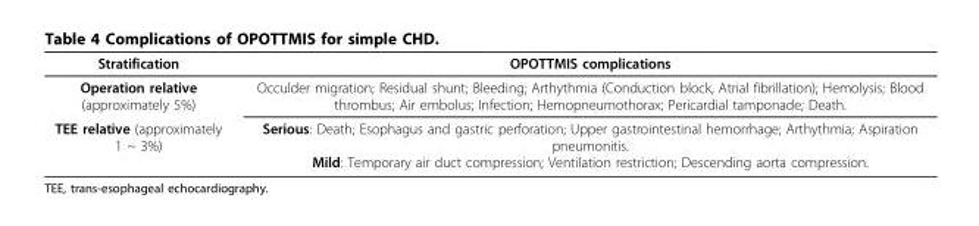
<table><thead><tr><td>Stratification</td><td>OPOTTMIS complications</td></tr></thead><tbody><tr><td>Operation relative (approximately 5%)</td><td>Occulder migration; Residual shunt; Bleeding; Arthythmia (Conduction block, Atrial fibrillation); Hemolysis; Blood thrombus; Air embolus; Infection; Hemopneumothorax; Pericardial tamponade; Death.</td></tr><tr><td>TEE relative (approximately 1 ~ 3%)</td><td>Serious: Death; Esophagus and gastric perforation; Upper gastrointestinal hemorrhage; Arthythmia; Aspiration pneumonitis. Mild: Temporary air duct compression; Ventilation restriction; Descending aorta compression.</td></tr></tbody></table>